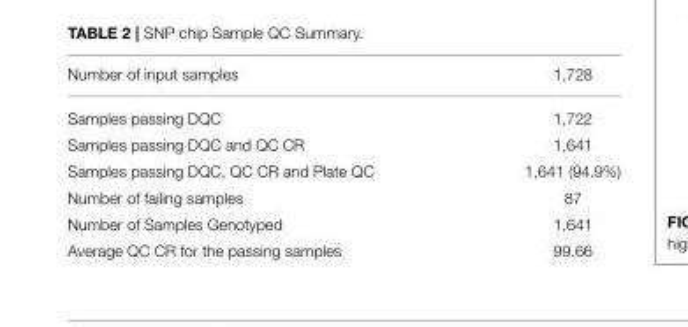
<table><tbody><tr><td>Number of input samples</td><td>1,728</td></tr><tr><td>Samples passing DQC</td><td>1,722</td></tr><tr><td>Samples passing DQC and QC CR</td><td>1,641</td></tr><tr><td>Samples passing DQC, QC CR and Plate QC</td><td>1,641 (94.9%)</td></tr><tr><td>Number of failing samples</td><td>87</td></tr><tr><td>Number of Samples Genotyped</td><td>1,641</td></tr><tr><td>Average QC CR for the passing samples</td><td>99.66</td></tr></tbody></table>